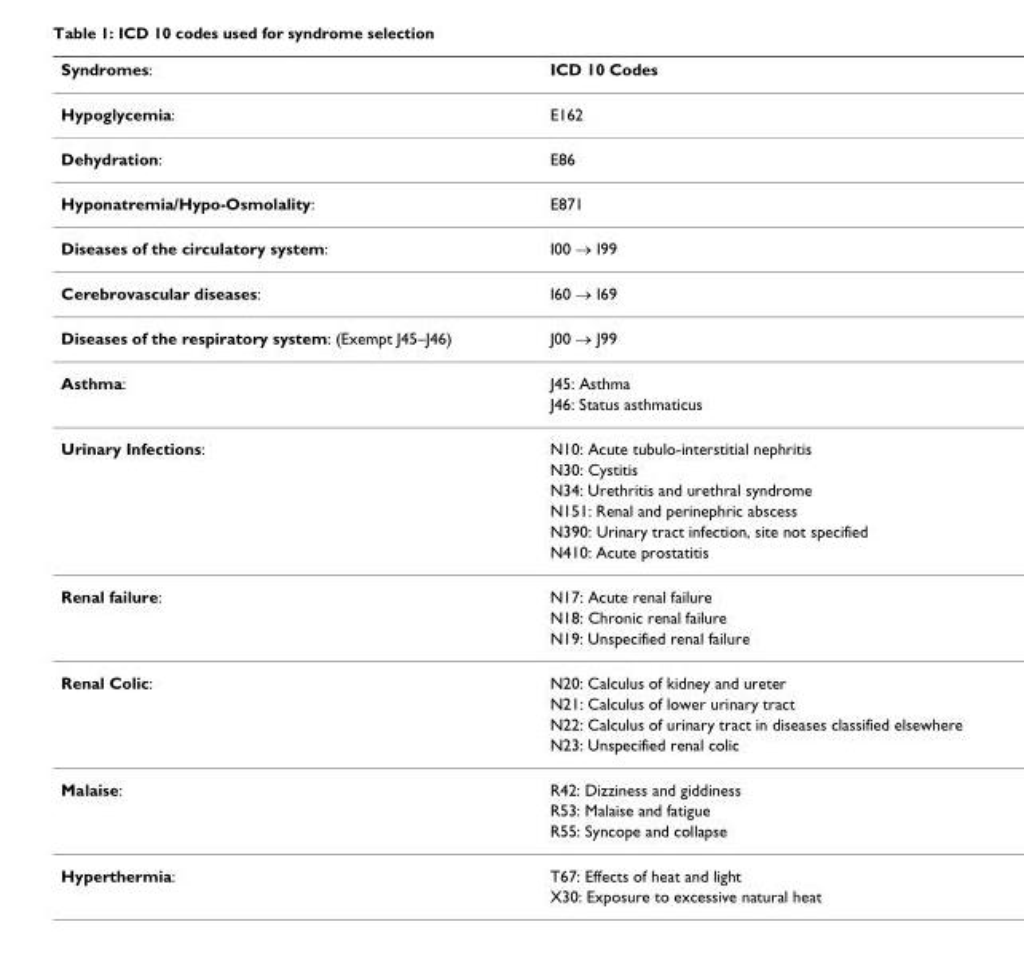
<table><thead><tr><td>Syndromes:</td><td>ICD 10 Codes</td></tr></thead><tbody><tr><td>Hypoglycemia:</td><td>E162</td></tr><tr><td>Dehydration:</td><td>E86</td></tr><tr><td>Hyponatremia/Hypo-Osmolality:</td><td>E871</td></tr><tr><td>Diseases of the circulatory system:</td><td>I00 → I99</td></tr><tr><td>Cerebrovascular diseases:</td><td>I60 → I69</td></tr><tr><td>Diseases of the respiratory system: (Exempt J45–J46)</td><td>J00 → J99</td></tr><tr><td rowspan="2">Asthma:</td><td>J45: Asthma</td></tr><tr><td>J46: Status asthmaticus</td></tr><tr><td rowspan="6">Urinary Infections:</td><td>N10: Acute tubulo-interstitial nephritis</td></tr><tr><td>N30: Cystitis</td></tr><tr><td>N34: Urethritis and urethral syndrome</td></tr><tr><td>N151: Renal and perinephric abscess</td></tr><tr><td>N390: Urinary tract infection, site not specified</td></tr><tr><td>N410: Acute prostatitis</td></tr><tr><td rowspan="3">Renal failure:</td><td>N17: Acute renal failure</td></tr><tr><td>N18: Chronic renal failure</td></tr><tr><td>N19: Unspecified renal failure</td></tr><tr><td rowspan="4">Renal Colic:</td><td>N20: Calculus of kidney and ureter</td></tr><tr><td>N21: Calculus of lower urinary tract</td></tr><tr><td>N22: Calculus of urinary tract in diseases classified elsewhere</td></tr><tr><td>N23: Unspecified renal colic</td></tr><tr><td rowspan="3">Malaise:</td><td>R42: Dizziness and giddiness</td></tr><tr><td>R53: Malaise and fatigue</td></tr><tr><td>R55: Syncope and collapse</td></tr><tr><td rowspan="2">Hyperthermia:</td><td>T67: Effects of heat and light</td></tr><tr><td>X30: Exposure to excessive natural heat</td></tr></tbody></table>